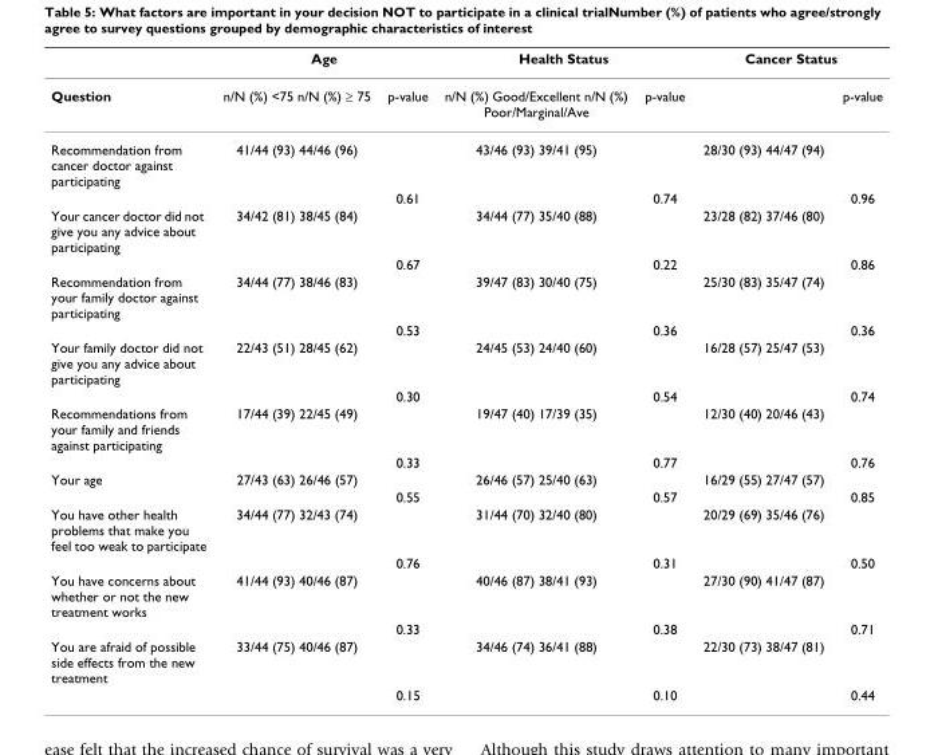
<table><thead><tr><td rowspan="2">Question</td><td colspan="2">Age</td><td colspan="2">Health Status</td><td colspan="2">Cancer Status</td></tr><tr><td>n/N (%) &lt;75 n/N (%) ≥ 75</td><td>p-value</td><td>n/N (%) Good/Excellent n/N (%) Poor/Marginal/Ave</td><td>p-value</td><td></td><td>p-value</td></tr></thead><tbody><tr><td rowspan="2">Recommendation from cancer doctor against participating</td><td>41/44 (93) 44/46 (96)</td><td></td><td>43/46 (93) 39/41 (95)</td><td></td><td>28/30 (93) 44/47 (94)</td><td></td></tr><tr><td></td><td>0.61</td><td></td><td>0.74</td><td></td><td>0.96</td></tr><tr><td rowspan="2">Your cancer doctor did not give you any advice about participating</td><td>34/42 (81) 38/45 (84)</td><td></td><td>34/44 (77) 35/40 (88)</td><td></td><td>23/28 (82) 37/46 (80)</td><td></td></tr><tr><td></td><td>0.67</td><td></td><td>0.22</td><td></td><td>0.86</td></tr><tr><td rowspan="2">Recommendation from your family doctor against participating</td><td>34/44 (77) 38/46 (83)</td><td></td><td>39/47 (83) 30/40 (75)</td><td></td><td>25/30 (83) 35/47 (74)</td><td></td></tr><tr><td></td><td>0.53</td><td></td><td>0.36</td><td></td><td>0.36</td></tr><tr><td rowspan="2">Your family doctor did not give you any advice about participating</td><td>22/43 (51) 28/45 (62)</td><td></td><td>24/45 (53) 24/40 (60)</td><td></td><td>16/28 (57) 25/47 (53)</td><td></td></tr><tr><td></td><td>0.30</td><td></td><td>0.54</td><td></td><td>0.74</td></tr><tr><td rowspan="2">Recommendations from your family and friends against participating</td><td>17/44 (39) 22/45 (49)</td><td></td><td>19/47 (40) 17/39 (35)</td><td></td><td>12/30 (40) 20/46 (43)</td><td></td></tr><tr><td></td><td>0.33</td><td></td><td>0.77</td><td></td><td>0.76</td></tr><tr><td rowspan="2">Your age</td><td>27/43 (63) 26/46 (57)</td><td></td><td>26/46 (57) 25/40 (63)</td><td></td><td>16/29 (55) 27/47 (57)</td><td></td></tr><tr><td></td><td>0.55</td><td></td><td>0.57</td><td></td><td>0.85</td></tr><tr><td rowspan="2">You have other health problems that make you feel too weak to participate</td><td>34/44 (77) 32/43 (74)</td><td></td><td>31/44 (70) 32/40 (80)</td><td></td><td>20/29 (69) 35/46 (76)</td><td></td></tr><tr><td></td><td>0.76</td><td></td><td>0.31</td><td></td><td>0.50</td></tr><tr><td rowspan="2">You have concerns about whether or not the new treatment works</td><td>41/44 (93) 40/46 (87)</td><td></td><td>40/46 (87) 38/41 (93)</td><td></td><td>27/30 (90) 41/47 (87)</td><td></td></tr><tr><td></td><td>0.33</td><td></td><td>0.38</td><td></td><td>0.71</td></tr><tr><td rowspan="2">You are afraid of possible side effects from the new treatment</td><td>33/44 (75) 40/46 (87)</td><td></td><td>34/46 (74) 36/41 (88)</td><td></td><td>22/30 (73) 38/47 (81)</td><td></td></tr><tr><td></td><td>0.15</td><td></td><td>0.10</td><td></td><td>0.44</td></tr></tbody></table>